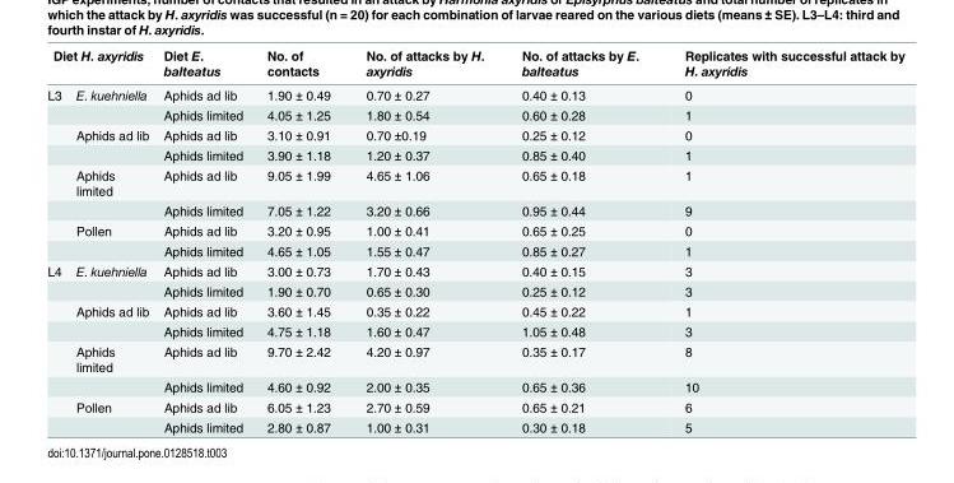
<table><thead><tr><td colspan="2">Diet H. axyridis</td><td rowspan="2">Diet E. balteatus Aphids ad lib</td><td rowspan="2">No. of contacts 1.90 ± 0.49</td><td rowspan="2">No. of attacks by H. axyridis 0.70 ± 0.27</td><td rowspan="2">No. of attacks by E. balteatus 0.40 ± 0.13</td><td rowspan="2">Replicates with successful attack by H. axyridis 0</td></tr><tr><td>L3</td><td>E. kuehniella</td></tr></thead><tbody><tr><td></td><td></td><td>Aphids limited</td><td>4.05 ± 1.25</td><td>1.80 ± 0.54</td><td>0.60 ± 0.28</td><td>1</td></tr><tr><td></td><td>Aphids ad lib</td><td>Aphids ad lib</td><td>3.10 ± 0.91</td><td>0.70 ±0.19</td><td>0.25 ± 0.12</td><td>0</td></tr><tr><td></td><td></td><td>Aphids limited</td><td>3.90 ± 1.18</td><td>1.20 ± 0.37</td><td>0.85 ± 0.40</td><td>1</td></tr><tr><td></td><td>Aphids limited</td><td>Aphids ad lib</td><td>9.05 ± 1.99</td><td>4.65 ± 1.06</td><td>0.65 ± 0.18</td><td>1</td></tr><tr><td></td><td></td><td>Aphids limited</td><td>7.05 ± 1.22</td><td>3.20 ± 0.66</td><td>0.95 ± 0.44</td><td>9</td></tr><tr><td></td><td>Pollen</td><td>Aphids ad lib</td><td>3.20 ± 0.95</td><td>1.00 ± 0.41</td><td>0.65 ± 0.25</td><td>0</td></tr><tr><td></td><td></td><td>Aphids limited</td><td>4.65 ± 1.05</td><td>1.55 ± 0.47</td><td>0.85 ± 0.27</td><td>1</td></tr><tr><td rowspan="8">L4</td><td>E. kuehniella</td><td>Aphids ad lib</td><td>3.00 ± 0.73</td><td>1.70 ± 0.43</td><td>0.40 ± 0.15</td><td>3</td></tr><tr><td></td><td>Aphids limited</td><td>1.90 ± 0.70</td><td>0.65 ± 0.30</td><td>0.25 ± 0.12</td><td>3</td></tr><tr><td>Aphids ad lib</td><td>Aphids ad lib</td><td>3.60 ± 1.45</td><td>0.35 ± 0.22</td><td>0.45 ± 0.22</td><td>1</td></tr><tr><td></td><td>Aphids limited</td><td>4.75 ± 1.18</td><td>1.60 ± 0.47</td><td>1.05 ± 0.48</td><td>3</td></tr><tr><td>Aphids limited</td><td>Aphids ad lib</td><td>9.70 ± 2.42</td><td>4.20 ± 0.97</td><td>0.35 ± 0.17</td><td>8</td></tr><tr><td></td><td>Aphids limited</td><td>4.60 ± 0.92</td><td>2.00 ± 0.35</td><td>0.65 ± 0.36</td><td>10</td></tr><tr><td>Pollen</td><td>Aphids ad lib</td><td>6.05 ± 1.23</td><td>2.70 ± 0.59</td><td>0.65 ± 0.21</td><td>6</td></tr><tr><td></td><td>Aphids limited</td><td>2.80 ± 0.87</td><td>1.00 ± 0.31</td><td>0.30 ± 0.18</td><td>5</td></tr></tbody></table>